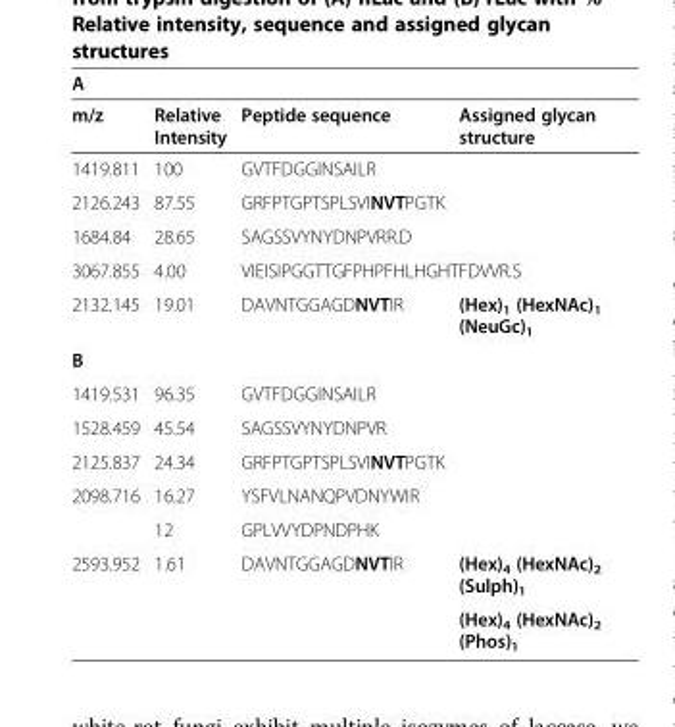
<table><thead><tr><td colspan="4">A</td></tr><tr><td>m/z</td><td>Relative Intensity</td><td>Peptide sequence</td><td>Assigned glycan structure</td></tr></thead><tbody><tr><td>1419.811</td><td>100</td><td>GVTFDGGINSAILR</td><td></td></tr><tr><td>2126.243</td><td>87.55</td><td colspan="2">GRFPTGPTSPLSVINVTPGTK</td></tr><tr><td>1684.84</td><td>28.65</td><td>SAGSSVYNYDNPVRR.D</td><td></td></tr><tr><td>3067.855</td><td>4.00</td><td colspan="2">VIEISIPGGTTGFPHPFHLHGHTFDVVR.S</td></tr><tr><td>2132.145</td><td>19.01</td><td>DAVNTGGAGDNVTIR</td><td>(Hex)<sub>1</sub> (HexNAc)<sub>1</sub> (NeuGc)<sub>1</sub></td></tr><tr><td colspan="4">B</td></tr><tr><td>1419.531</td><td>96.35</td><td>GVTFDGGINSAILR</td><td></td></tr><tr><td>1528.459</td><td>45.54</td><td>SAGSSVYNYDNPVR</td><td></td></tr><tr><td>2125.837</td><td>24.34</td><td>GRFPTGPTSPLSVINVTPGTK</td><td></td></tr><tr><td rowspan="2">2098.716</td><td>16.27</td><td>YSFVLNANQPVDNYWIR</td><td></td></tr><tr><td>12</td><td>GPLVVYDPNDPHK</td><td></td></tr><tr><td rowspan="2">2593.952</td><td>1.61</td><td>DAVNTGGAGDNVTIR</td><td>(Hex)<sub>4</sub> (HexNAc)<sub>2</sub> (Sulph)<sub>1</sub></td></tr><tr><td></td><td></td><td>(Hex)<sub>4</sub> (HexNAc)<sub>2</sub> (Phos)<sub>1</sub></td></tr></tbody></table>